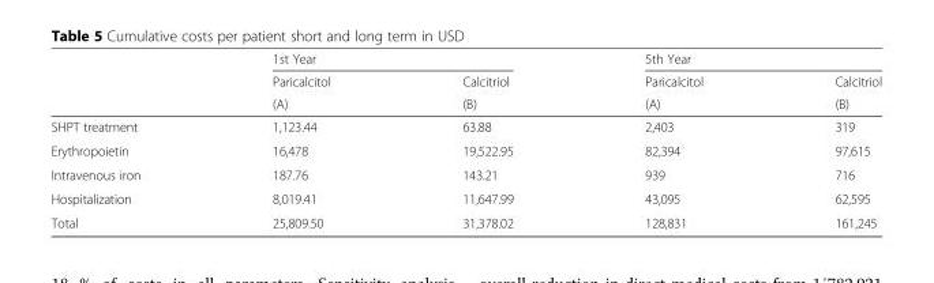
<table><thead><tr><td rowspan="3"></td><td colspan="2">1st Year</td><td colspan="2">5th Year</td></tr><tr><td rowspan="2">Paricalcitol (A)</td><td rowspan="2">Calcitriol (B)</td><td rowspan="2">Paricalcitol (A)</td><td rowspan="2">Calcitriol (B)</td></tr><tr></tr></thead><tbody><tr><td>SHPT treatment</td><td>1,123.44</td><td>63.88</td><td>2,403</td><td>319</td></tr><tr><td>Erythropoietin</td><td>16,478</td><td>19,522.95</td><td>82,394</td><td>97,615</td></tr><tr><td>Intravenous iron</td><td>187.76</td><td>143.21</td><td>939</td><td>716</td></tr><tr><td>Hospitalization</td><td>8,019.41</td><td>11,647.99</td><td>43,095</td><td>62,595</td></tr><tr><td>Total</td><td>25,809.50</td><td>31,378.02</td><td>128,831</td><td>161,245</td></tr></tbody></table>